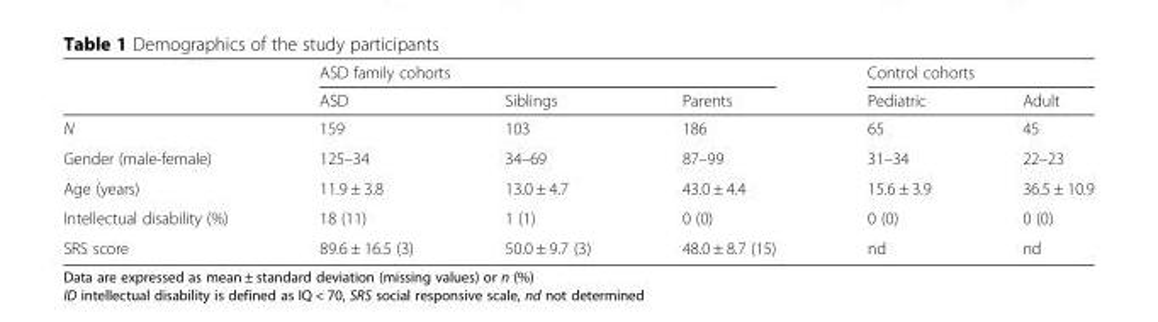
<table><thead><tr><td rowspan="2"></td><td colspan="3">ASD family cohorts</td><td colspan="2">Control cohorts</td></tr><tr><td>ASD</td><td>Siblings</td><td>Parents</td><td>Pediatric</td><td>Adult</td></tr></thead><tbody><tr><td>N</td><td>159</td><td>103</td><td>186</td><td>65</td><td>45</td></tr><tr><td>Gender (male-female)</td><td>125–34</td><td>34–69</td><td>87–99</td><td>31–34</td><td>22–23</td></tr><tr><td>Age (years)</td><td>11.9 ± 3.8</td><td>13.0 ± 4.7</td><td>43.0 ± 4.4</td><td>15.6 ± 3.9</td><td>36.5 ± 10.9</td></tr><tr><td>Intellectual disability (%)</td><td>18 (11)</td><td>1 (1)</td><td>0 (0)</td><td>0 (0)</td><td>0 (0)</td></tr><tr><td>SRS score</td><td>89.6 ± 16.5 (3)</td><td>50.0 ± 9.7 (3)</td><td>48.0 ± 8.7 (15)</td><td>nd</td><td>nd</td></tr></tbody></table>